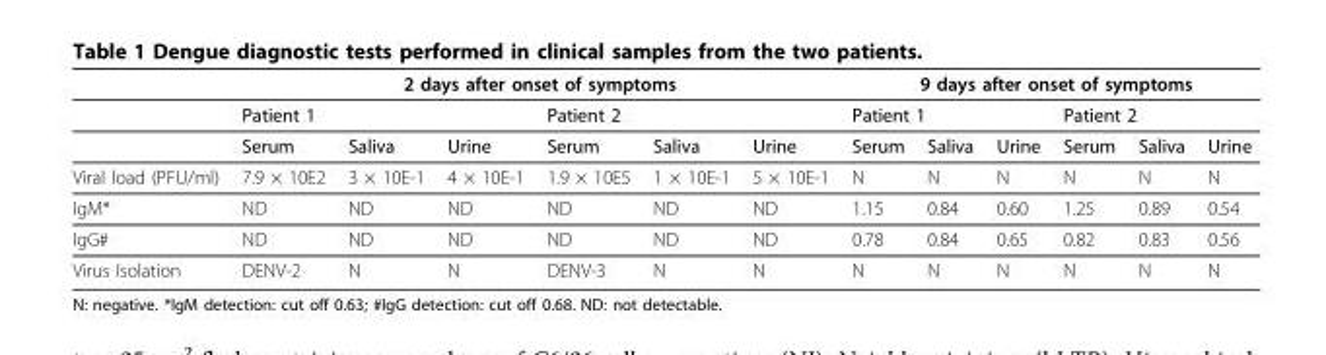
<table><thead><tr><td rowspan="3"></td><td colspan="6">2 days after onset of symptoms</td><td colspan="6">9 days after onset of symptoms</td></tr><tr><td colspan="3">Patient 1</td><td colspan="3">Patient 2</td><td colspan="3">Patient 1</td><td colspan="3">Patient 2</td></tr><tr><td>Serum</td><td>Saliva</td><td>Urine</td><td>Serum</td><td>Saliva</td><td>Urine</td><td>Serum</td><td>Saliva</td><td>Urine</td><td>Serum</td><td>Saliva</td><td>Urine</td></tr></thead><tbody><tr><td>Viral load (PFU/ml)</td><td>7.9 × 10E2</td><td>3 × 10E-1</td><td>4 × 10E-1</td><td>1.9 × 10E5</td><td>1 × 10E-1</td><td>5 × 10E-1</td><td>N</td><td>N</td><td>N</td><td>N</td><td>N</td><td>N</td></tr><tr><td>IgM*</td><td>ND</td><td>ND</td><td>ND</td><td>ND</td><td>ND</td><td>ND</td><td>1.15</td><td>0.84</td><td>0.60</td><td>1.25</td><td>0.89</td><td>0.54</td></tr><tr><td>IgG#</td><td>ND</td><td>ND</td><td>ND</td><td>ND</td><td>ND</td><td>ND</td><td>0.78</td><td>0.84</td><td>0.65</td><td>0.82</td><td>0.83</td><td>0.56</td></tr><tr><td>Virus Isolation</td><td>DENV-2</td><td>N</td><td>N</td><td>DENV-3</td><td>N</td><td>N</td><td>N</td><td>N</td><td>N</td><td>N</td><td>N</td><td>N</td></tr></tbody></table>